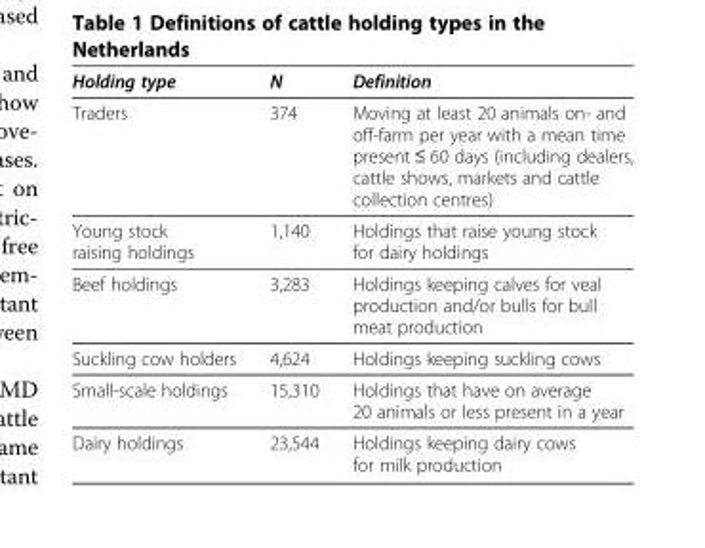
<table><thead><tr><td>Holding type</td><td>N</td><td>Definition</td></tr></thead><tbody><tr><td>Traders</td><td>374</td><td>Moving at least 20 animals on- and off-farm per year with a mean time present ≤ 60 days (including dealers, cattle shows, markets and cattle collection centres)</td></tr><tr><td>Young stock raising holdings</td><td>1,140</td><td>Holdings that raise young stock for dairy holdings</td></tr><tr><td>Beef holdings</td><td>3,283</td><td>Holdings keeping calves for veal production and/or bulls for bull meat production</td></tr><tr><td>Suckling cow holders</td><td>4,624</td><td>Holdings keeping suckling cows</td></tr><tr><td>Small-scale holdings</td><td>15,310</td><td>Holdings that have on average 20 animals or less present in a year</td></tr><tr><td>Dairy holdings</td><td>23,544</td><td>Holdings keeping dairy cows for milk production</td></tr></tbody></table>